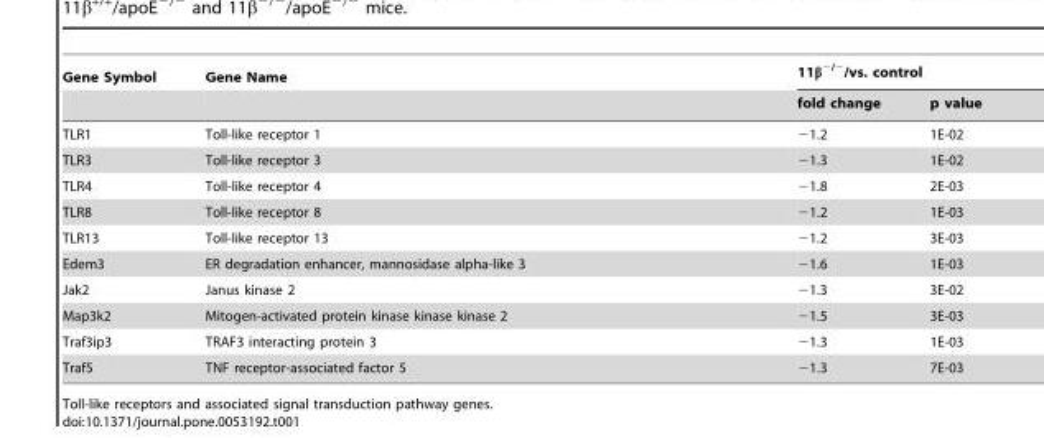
<table><thead><tr><td rowspan="2">Gene Symbol</td><td rowspan="2">Gene Name</td><td colspan="2">11β<sup>−/−</sup>/vs. control</td></tr><tr><td>fold change</td><td>p value</td></tr></thead><tbody><tr><td>TLR1</td><td>Toll-like receptor 1</td><td>−1.2</td><td>1E-02</td></tr><tr><td>TLR3</td><td>Toll-like receptor 3</td><td>−1.3</td><td>1E-02</td></tr><tr><td>TLR4</td><td>Toll-like receptor 4</td><td>−1.8</td><td>2E-03</td></tr><tr><td>TLR8</td><td>Toll-like receptor 8</td><td>−1.2</td><td>1E-03</td></tr><tr><td>TLR13</td><td>Toll-like receptor 13</td><td>−1.2</td><td>3E-03</td></tr><tr><td>Edem3</td><td>ER degradation enhancer, mannosidase alpha-like 3</td><td>−1.6</td><td>1E-03</td></tr><tr><td>Jak2</td><td>Janus kinase 2</td><td>−1.3</td><td>3E-02</td></tr><tr><td>Map3k2</td><td>Mitogen-activated protein kinase kinase kinase 2</td><td>−1.5</td><td>3E-03</td></tr><tr><td>Traf3ip3</td><td>TRAF3 interacting protein 3</td><td>−1.3</td><td>1E-03</td></tr><tr><td>Traf5</td><td>TNF receptor-associated factor 5</td><td>−1.3</td><td>7E-03</td></tr></tbody></table>